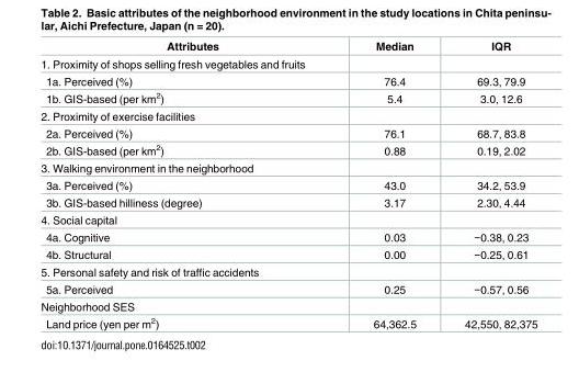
<table><thead><tr><td>Attributes</td><td>Median</td><td>IQR</td></tr></thead><tbody><tr><td colspan="3">1. Proximity of shops selling fresh vegetables and fruits</td></tr><tr><td>1a. Perceived (%)</td><td>76.4</td><td>69.3, 79.9</td></tr><tr><td>1b. GIS-based (per km<sup>2</sup>)</td><td>5.4</td><td>3.0, 12.6</td></tr><tr><td colspan="3">2. Proximity of exercise facilities</td></tr><tr><td>2a. Perceived (%)</td><td>76.1</td><td>68.7, 83.8</td></tr><tr><td>2b. GIS-based (per km<sup>2</sup>)</td><td>0.88</td><td>0.19, 2.02</td></tr><tr><td colspan="3">3. Walking environment in the neighborhood</td></tr><tr><td>3a. Perceived (%)</td><td>43.0</td><td>34.2, 53.9</td></tr><tr><td>3b. GIS-based hilliness (degree)</td><td>3.17</td><td>2.30, 4.44</td></tr><tr><td colspan="3">4. Social capital</td></tr><tr><td>4a. Cognitive</td><td>0.03</td><td>−0.38, 0.23</td></tr><tr><td>4b. Structural</td><td>0.00</td><td>−0.25, 0.61</td></tr><tr><td colspan="3">5. Personal safety and risk of traffic accidents</td></tr><tr><td>5a. Perceived</td><td>0.25</td><td>−0.57, 0.56</td></tr><tr><td colspan="3">Neighborhood SES</td></tr><tr><td>Land price (yen per m<sup>2</sup>)</td><td>64,362.5</td><td>42,550, 82,375</td></tr></tbody></table>